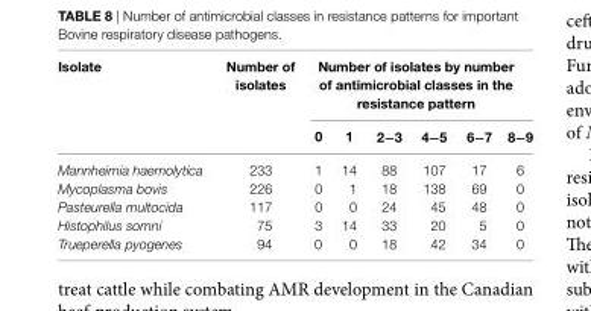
<table><thead><tr><td rowspan="2">isolate</td><td rowspan="2">number of isolates</td><td colspan="6">number of isolates by number of antimicrobial classes in the resistance pattern</td></tr><tr><td>0</td><td>1</td><td>2−3</td><td>4−5</td><td>6−7</td><td>8−9</td></tr></thead><tbody><tr><td>Mannheimia haemolytica</td><td>233</td><td>1</td><td>14</td><td>88</td><td>107</td><td>17</td><td>6</td></tr><tr><td>Mycoplasma bovis</td><td>226</td><td>0</td><td>1</td><td>18</td><td>138</td><td>69</td><td>0</td></tr><tr><td>Pasteurella multocida</td><td>117</td><td>0</td><td>0</td><td>24</td><td>45</td><td>48</td><td>0</td></tr><tr><td>Histophilus somni</td><td>75</td><td>3</td><td>14</td><td>33</td><td>20</td><td>5</td><td>0</td></tr><tr><td>Trueperella pyogenes</td><td>94</td><td>0</td><td>0</td><td>18</td><td>42</td><td>34</td><td>0</td></tr></tbody></table>